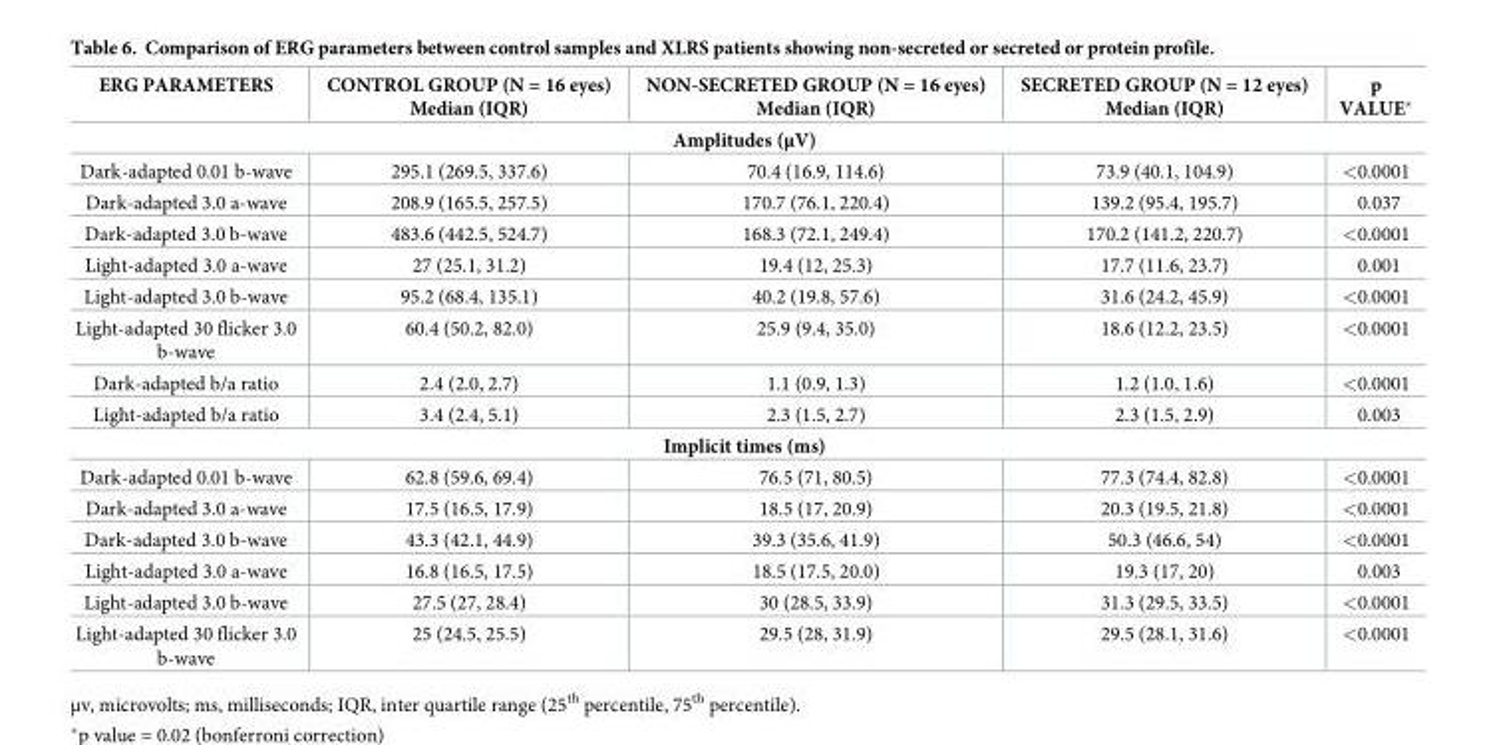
<table><thead><tr><td>ERG PARAMETERS</td><td>CONTROL GROUP (N = 16 eyes) Median (IQR)</td><td>NON-SECRETED GROUP (N = 16 eyes) Median (IQR)</td><td>SECRETED GROUP (N = 12 eyes) Median (IQR)</td><td>p VALUE*</td></tr></thead><tbody><tr><td colspan="5">Amplitudes (μV)</td></tr><tr><td>Dark-adapted 0.01 b-wave</td><td>295.1 (269.5, 337.6)</td><td>70.4 (16.9, 114.6)</td><td>73.9 (40.1, 104.9)</td><td>&lt;0.0001</td></tr><tr><td>Dark-adapted 3.0 a-wave</td><td>208.9 (165.5, 257.5)</td><td>170.7 (76.1, 220.4)</td><td>139.2 (95.4, 195.7)</td><td>0.037</td></tr><tr><td>Dark-adapted 3.0 b-wave</td><td>483.6 (442.5, 524.7)</td><td>168.3 (72.1, 249.4)</td><td>170.2 (141.2, 220.7)</td><td>&lt;0.0001</td></tr><tr><td>Light-adapted 3.0 a-wave</td><td>27 (25.1, 31.2)</td><td>19.4 (12, 25.3)</td><td>17.7 (11.6, 23.7)</td><td>0.001</td></tr><tr><td>Light-adapted 3.0 b-wave</td><td>95.2 (68.4, 135.1)</td><td>40.2 (19.8, 57.6)</td><td>31.6 (24.2, 45.9)</td><td>&lt;0.0001</td></tr><tr><td>Light-adapted 30 flicker 3.0 b-wave</td><td>60.4 (50.2, 82.0)</td><td>25.9 (9.4, 35.0)</td><td>18.6 (12.2, 23.5)</td><td>&lt;0.0001</td></tr><tr><td>Dark-adapted b/a ratio</td><td>2.4 (2.0, 2.7)</td><td>1.1 (0.9, 1.3)</td><td>1.2 (1.0, 1.6)</td><td>&lt;0.0001</td></tr><tr><td>Light-adapted b/a ratio</td><td>3.4 (2.4, 5.1)</td><td>2.3 (1.5, 2.7)</td><td>2.3 (1.5, 2.9)</td><td>0.003</td></tr><tr><td colspan="5">Implicit times (ms)</td></tr><tr><td>Dark-adapted 0.01 b-wave</td><td>62.8 (59.6, 69.4)</td><td>76.5 (71, 80.5)</td><td>77.3 (74.4, 82.8)</td><td>&lt;0.0001</td></tr><tr><td>Dark-adapted 3.0 a-wave</td><td>17.5 (16.5, 17.9)</td><td>18.5 (17, 20.9)</td><td>20.3 (19.5, 21.8)</td><td>&lt;0.0001</td></tr><tr><td>Dark-adapted 3.0 b-wave</td><td>43.3 (42.1, 44.9)</td><td>39.3 (35.6, 41.9)</td><td>50.3 (46.6, 54)</td><td>&lt;0.0001</td></tr><tr><td>Light-adapted 3.0 a-wave</td><td>16.8 (16.5, 17.5)</td><td>18.5 (17.5, 20.0)</td><td>19.3 (17, 20)</td><td>0.003</td></tr><tr><td>Light-adapted 3.0 b-wave</td><td>27.5 (27, 28.4)</td><td>30 (28.5, 33.9)</td><td>31.3 (29.5, 33.5)</td><td>&lt;0.0001</td></tr><tr><td>Light-adapted 30 flicker 3.0 b-wave</td><td>25 (24.5, 25.5)</td><td>29.5 (28, 31.9)</td><td>29.5 (28.1, 31.6)</td><td>&lt;0.0001</td></tr></tbody></table>